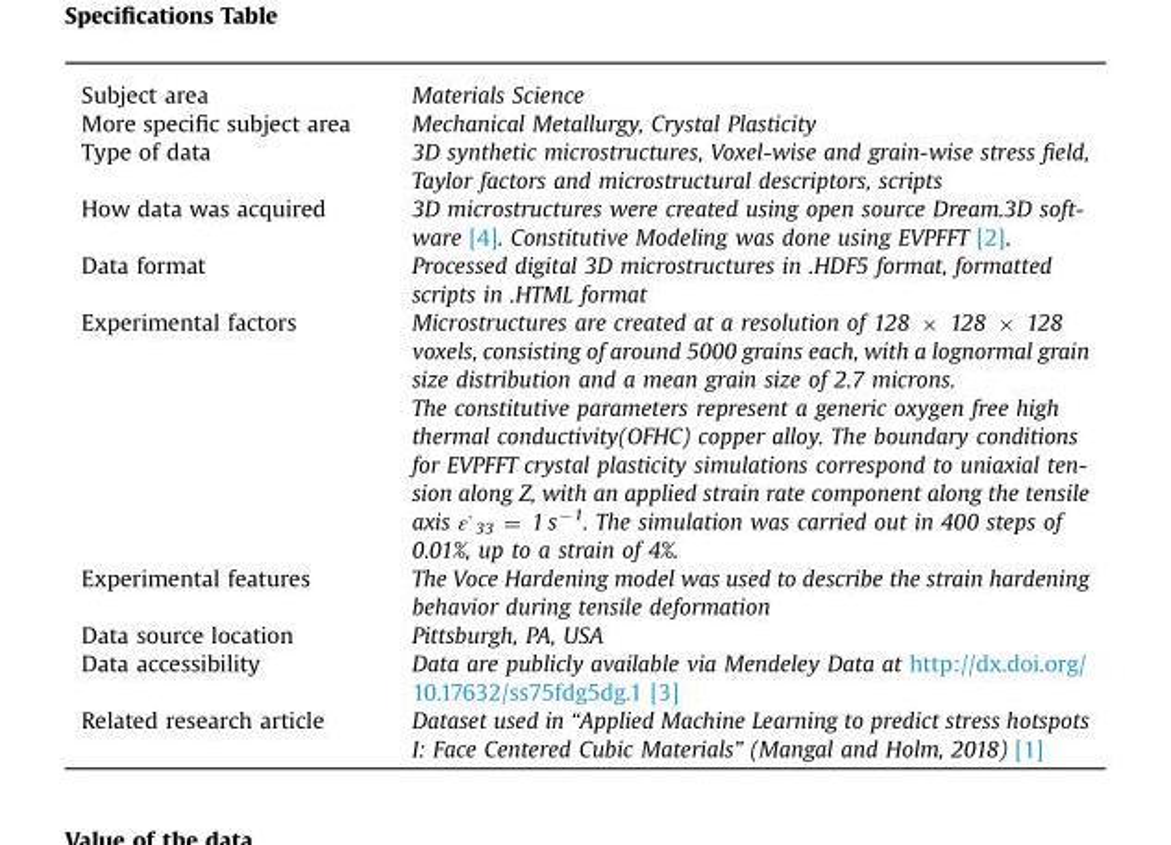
<table><tbody><tr><td>Subject area</td><td>Materials Science</td></tr><tr><td>More specific subject area</td><td>Mechanical Metallurgy, Crystal Plasticity</td></tr><tr><td>Type of data</td><td>3D synthetic microstructures, Voxel-wise and grain-wise stress field, Taylor factors and microstructural descriptors, scripts</td></tr><tr><td>How data was acquired</td><td>3D microstructures were created using open source Dream.3D soft- ware [4]. Constitutive Modeling was done using EVPFFT [2].</td></tr><tr><td>Data format</td><td>Processed digital 3D microstructures in .HDF5 format, formatted scripts in .HTML format</td></tr><tr><td rowspan="2">Experimental factors</td><td>Microstructures are created at a resolution of 128 × 128 × 128 voxels, consisting of around 5000 grains each, with a lognormal grain size distribution and a mean grain size of 2.7 microns.</td></tr><tr><td>The constitutive parameters represent a generic oxygen free high thermal conductivity(OFHC) copper alloy. The boundary conditions for EVPFFT crystal plasticity simulations correspond to uniaxial ten- sion along Z, with an applied strain rate component along the tensile axis ε ̇33 ¼ 1 s�1. The simulation was carried out in 400 steps of 0.01%, up to a strain of 4%.</td></tr><tr><td>Experimental features</td><td>The Voce Hardening model was used to describe the strain hardening behavior during tensile deformation</td></tr><tr><td>Data source location</td><td>Pittsburgh, PA, USA</td></tr><tr><td>Data accessibility</td><td>Data are publicly available via Mendeley Data at http://dx.doi.org/ 10.17632/ss75fdg5dg.1 [3]</td></tr><tr><td>Related research article</td><td>Dataset used in “Applied Machine Learning to predict stress hotspots I: Face Centered Cubic Materials” (Mangal and Holm, 2018) [1]</td></tr></tbody></table>